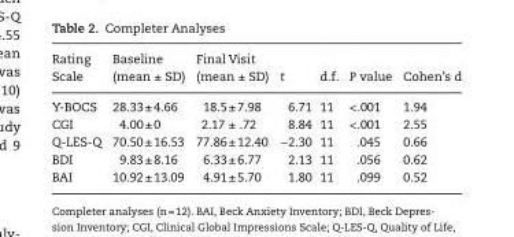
<table><thead><tr><td>Rating Scale</td><td>Baseline (mean ± SD)</td><td>Final Visit (mean ± SD)</td><td>t</td><td>d.f.</td><td>P value</td><td>Cohen’s d</td></tr></thead><tbody><tr><td>Y-BOCS</td><td>28.33 ± 4.66</td><td>18.5 ± 7.98</td><td>6.71</td><td>11</td><td>&lt;.001</td><td>1.94</td></tr><tr><td>CGI</td><td>4.00 ± 0</td><td>2.17 ± .72</td><td>8.84</td><td>11</td><td>&lt;.001</td><td>2.55</td></tr><tr><td>Q-LES-Q</td><td>70.50 ± 16.53</td><td>77.86 ± 12.40</td><td>−2.30</td><td>11</td><td>.045</td><td>0.66</td></tr><tr><td>BDI</td><td>9.83 ± 8.16</td><td>6.33 ± 6.77</td><td>2.13</td><td>11</td><td>.056</td><td>0.62</td></tr><tr><td>BAI</td><td>10.92 ± 13.09</td><td>4.91 ± 5.70</td><td>1.80</td><td>11</td><td>.099</td><td>0.52</td></tr></tbody></table>